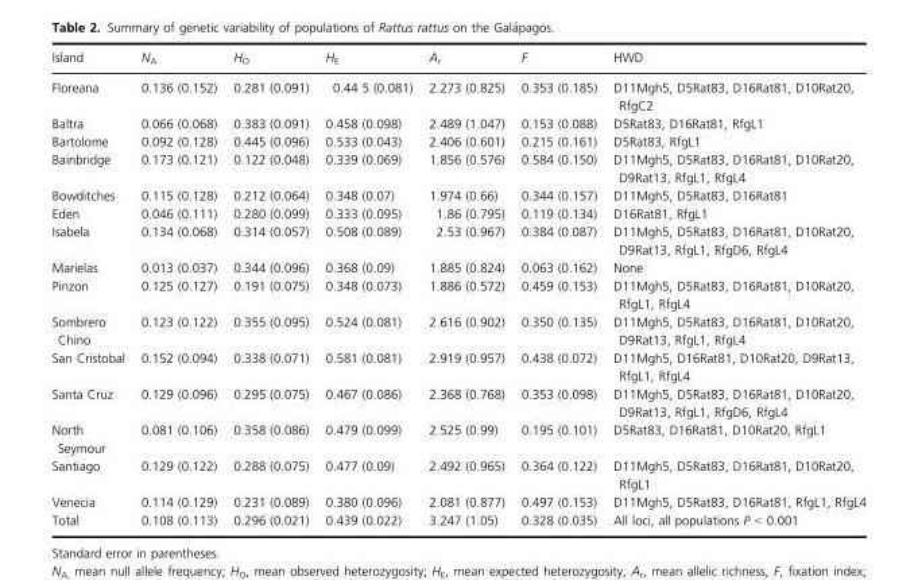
<table><thead><tr><td>Island</td><td>N<sub>A</sub></td><td>H<sub>O</sub></td><td>H<sub>E</sub></td><td>A<sub>r</sub></td><td>F</td><td>HWD</td></tr></thead><tbody><tr><td>Floreana</td><td>0.136 (0.152)</td><td>0.281 (0.091)</td><td>0.44 5 (0.081)</td><td>2.273 (0.825)</td><td>0.353 (0.185)</td><td>D11Mgh5, D5Rat83, D16Rat81, D10Rat20, RfgC2</td></tr><tr><td>Baltra</td><td>0.066 (0.068)</td><td>0.383 (0.091)</td><td>0.458 (0.098)</td><td>2.489 (1.047)</td><td>0.153 (0.088)</td><td>D5Rat83, D16Rat81, RfgL1</td></tr><tr><td>Bartolome</td><td>0.092 (0.128)</td><td>0.445 (0.096)</td><td>0.533 (0.043)</td><td>2.406 (0.601)</td><td>0.215 (0.161)</td><td>D5Rat83, RfgL1</td></tr><tr><td>Bainbridge</td><td>0.173 (0.121)</td><td>0.122 (0.048)</td><td>0.339 (0.069)</td><td>1.856 (0.576)</td><td>0.584 (0.150)</td><td>D11Mgh5, D5Rat83, D16Rat81, D10Rat20, D9Rat13, RfgL1, RfgL4</td></tr><tr><td>Bowditches</td><td>0.115 (0.128)</td><td>0.212 (0.064)</td><td>0.348 (0.07)</td><td>1.974 (0.66)</td><td>0.344 (0.157)</td><td>D11Mgh5, D5Rat83, D16Rat81</td></tr><tr><td>Eden</td><td>0.046 (0.111)</td><td>0.280 (0.099)</td><td>0.333 (0.095)</td><td>1.86 (0.795)</td><td>0.119 (0.134)</td><td>D16Rat81, RfgL1</td></tr><tr><td>Isabela</td><td>0.134 (0.068)</td><td>0.314 (0.057)</td><td>0.508 (0.089)</td><td>2.53 (0.967)</td><td>0.384 (0.087)</td><td>D11Mgh5, D5Rat83, D16Rat81, D10Rat20, D9Rat13, RfgL1, RfgD6, RfgL4</td></tr><tr><td>Marielas</td><td>0.013 (0.037)</td><td>0.344 (0.096)</td><td>0.368 (0.09)</td><td>1.885 (0.824)</td><td>0.063 (0.162)</td><td>None</td></tr><tr><td>Pinzon</td><td>0.125 (0.127)</td><td>0.191 (0.075)</td><td>0.348 (0.073)</td><td>1.886 (0.572)</td><td>0.459 (0.153)</td><td>D11Mgh5, D5Rat83, D16Rat81, D10Rat20, RfgL1, RfgL4</td></tr><tr><td>Sombrero Chino</td><td>0.123 (0.122)</td><td>0.355 (0.095)</td><td>0.524 (0.081)</td><td>2.616 (0.902)</td><td>0.350 (0.135)</td><td>D11Mgh5, D5Rat83, D16Rat81, D10Rat20, D9Rat13, RfgL1, RfgL4</td></tr><tr><td>San Cristobal</td><td>0.152 (0.094)</td><td>0.338 (0.071)</td><td>0.581 (0.081)</td><td>2.919 (0.957)</td><td>0.438 (0.072)</td><td>D11Mgh5, D16Rat81, D10Rat20, D9Rat13, RfgL1, RfgL4</td></tr><tr><td>Santa Cruz</td><td>0.129 (0.096)</td><td>0.295 (0.075)</td><td>0.467 (0.086)</td><td>2.368 (0.768)</td><td>0.353 (0.098)</td><td>D11Mgh5, D5Rat83, D16Rat81, D10Rat20, D9Rat13, RfgL1, RfgD6, RfgL4</td></tr><tr><td>North Seymour</td><td>0.081 (0.106)</td><td>0.358 (0.086)</td><td>0.479 (0.099)</td><td>2.525 (0.99)</td><td>0.195 (0.101)</td><td>D5Rat83, D16Rat81, D10Rat20, RfgL1</td></tr><tr><td>Santiago</td><td>0.129 (0.122)</td><td>0.288 (0.075)</td><td>0.477 (0.09)</td><td>2.492 (0.965)</td><td>0.364 (0.122)</td><td>D11Mgh5, D5Rat83, D16Rat81, D10Rat20, RfgL1</td></tr><tr><td>Venecia</td><td>0.114 (0.129)</td><td>0.231 (0.089)</td><td>0.380 (0.096)</td><td>2.081 (0.877)</td><td>0.497 (0.153)</td><td>D11Mgh5, D5Rat83, D16Rat81, RfgL1, RfgL4</td></tr><tr><td>Total</td><td>0.108 (0.113)</td><td>0.296 (0.021)</td><td>0.439 (0.022)</td><td>3.247 (1.05)</td><td>0.328 (0.035)</td><td>All loci, all populations P &lt; 0.001</td></tr></tbody></table>